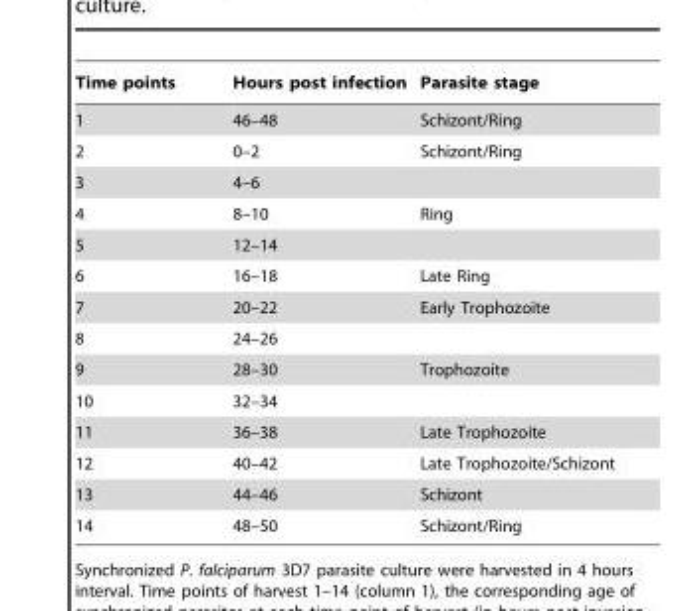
<table><thead><tr><td>Time points</td><td>Hours post infection</td><td>Parasite stage</td></tr></thead><tbody><tr><td>1</td><td>46–48</td><td>Schizont/Ring</td></tr><tr><td>2</td><td>0–2</td><td>Schizont/Ring</td></tr><tr><td>3</td><td>4–6</td><td></td></tr><tr><td>4</td><td>8–10</td><td>Ring</td></tr><tr><td>5</td><td>12–14</td><td></td></tr><tr><td>6</td><td>16–18</td><td>Late Ring</td></tr><tr><td>7</td><td>20–22</td><td>Early Trophozoite</td></tr><tr><td>8</td><td>24–26</td><td></td></tr><tr><td>9</td><td>28–30</td><td>Trophozoite</td></tr><tr><td>10</td><td>32–34</td><td></td></tr><tr><td>11</td><td>36–38</td><td>Late Trophozoite</td></tr><tr><td>12</td><td>40–42</td><td>Late Trophozoite/Schizont</td></tr><tr><td>13</td><td>44–46</td><td>Schizont</td></tr><tr><td>14</td><td>48–50</td><td>Schizont/Ring</td></tr></tbody></table>